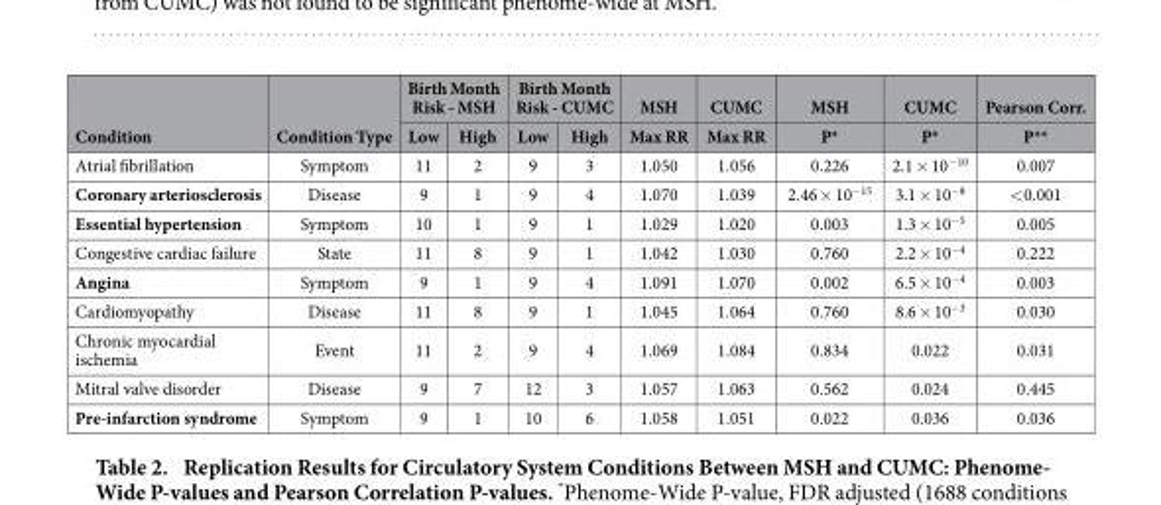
<table><thead><tr><td rowspan="2">Condition</td><td rowspan="2">Condition Type</td><td colspan="2">Birth Month Risk - MSH</td><td colspan="2">Birth Month Risk - CUMC</td><td rowspan="2">MSH Max RR</td><td rowspan="2">CUMC Max RR</td><td rowspan="2">MSH P*</td><td rowspan="2">CUMC P*</td><td rowspan="2">Pearson Corr. P**</td></tr><tr><td>Low</td><td>High</td><td>Low</td><td>High</td></tr></thead><tbody><tr><td>Atrial fibrillation</td><td>Symptom</td><td>11</td><td>2</td><td>9</td><td>3</td><td>1.050</td><td>1.056</td><td>0.226</td><td>2.1 × 10<sup>−</sup>1<sup>0</sup></td><td>0.007</td></tr><tr><td>Coronary arteriosclerosis</td><td>Disease</td><td>9</td><td>1</td><td>9</td><td>4</td><td>1.070</td><td>1.039</td><td>2.46 × 10<sup>−15</sup></td><td>3.1 × 10<sup>−8</sup></td><td>&lt; 0.001</td></tr><tr><td>Essential hypertension</td><td>Symptom</td><td>10</td><td>1</td><td>9</td><td>1</td><td>1.029</td><td>1.020</td><td>0.003</td><td>1.3 × 10<sup>−5</sup></td><td>0.005</td></tr><tr><td>Congestive cardiac failure</td><td>State</td><td>11</td><td>8</td><td>9</td><td>1</td><td>1.042</td><td>1.030</td><td>0.760</td><td>2.2 × 10<sup>−4</sup></td><td>0.222</td></tr><tr><td>Angina</td><td>Symptom</td><td>9</td><td>1</td><td>9</td><td>4</td><td>1.091</td><td>1.070</td><td>0.002</td><td>6.5 × 10<sup>−4</sup></td><td>0.003</td></tr><tr><td>Cardiomyopathy</td><td>Disease</td><td>11</td><td>8</td><td>9</td><td>1</td><td>1.045</td><td>1.064</td><td>0.760</td><td>8.6 × 10<sup>−3</sup></td><td>0.030</td></tr><tr><td>Chronic myocardial ischemia</td><td>Event</td><td>11</td><td>2</td><td>9</td><td>4</td><td>1.069</td><td>1.084</td><td>0.834</td><td>0.022</td><td>0.031</td></tr><tr><td>Mitral valve disorder</td><td>Disease</td><td>9</td><td>7</td><td>12</td><td>3</td><td>1.057</td><td>1.063</td><td>0.562</td><td>0.024</td><td>0.445</td></tr><tr><td>Pre-infarction syndrome</td><td>Symptom</td><td>9</td><td>1</td><td>10</td><td>6</td><td>1.058</td><td>1.051</td><td>0.022</td><td>0.036</td><td>0.036</td></tr></tbody></table>